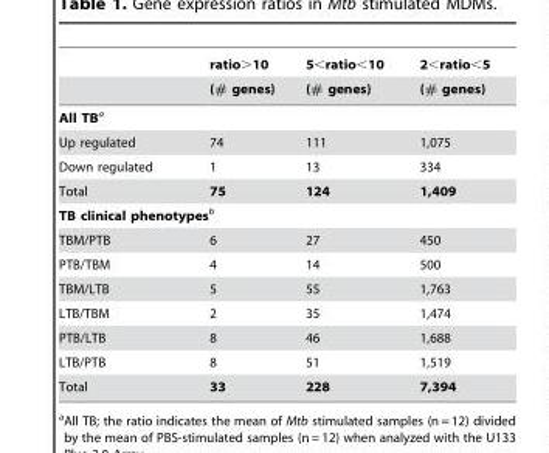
<table><thead><tr><td rowspan="2"></td><td rowspan="2">ratio&gt;10 (# genes)</td><td rowspan="2">5&lt;ratio&lt;10 (# genes)</td><td rowspan="2">2&lt;ratio&lt;5 (# genes)</td></tr><tr></tr></thead><tbody><tr><td colspan="4">All TBa</td></tr><tr><td>Up regulated</td><td>74</td><td>111</td><td>1,075</td></tr><tr><td>Down regulated</td><td>1</td><td>13</td><td>334</td></tr><tr><td>Total</td><td>75</td><td>124</td><td>1,409</td></tr><tr><td colspan="4">TB clinical phenotypesb</td></tr><tr><td>TBM/PTB</td><td>6</td><td>27</td><td>450</td></tr><tr><td>PTB/TBM</td><td>4</td><td>14</td><td>500</td></tr><tr><td>TBM/LTB</td><td>5</td><td>55</td><td>1,763</td></tr><tr><td>LTB/TBM</td><td>2</td><td>35</td><td>1,474</td></tr><tr><td>PTB/LTB</td><td>8</td><td>46</td><td>1,688</td></tr><tr><td>LTB/PTB</td><td>8</td><td>51</td><td>1,519</td></tr><tr><td>Total</td><td>33</td><td>228</td><td>7,394</td></tr></tbody></table>